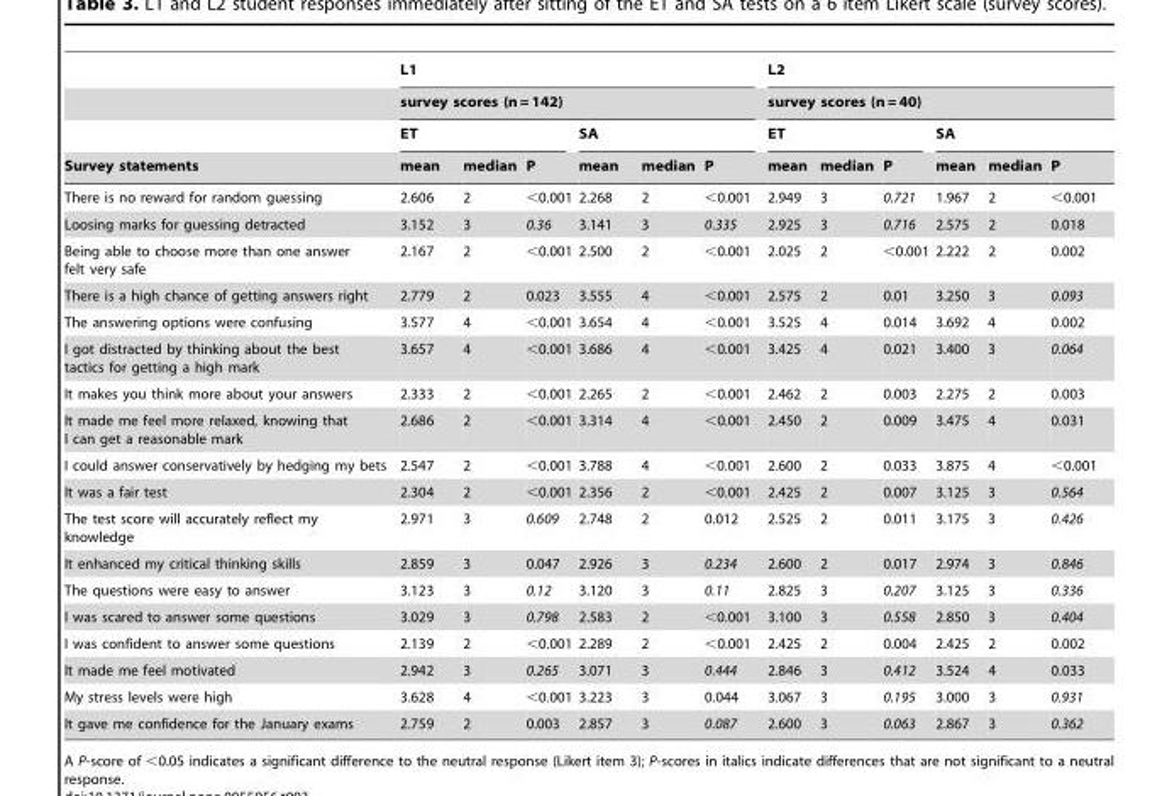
<table><thead><tr><td rowspan="4">Survey statements</td><td rowspan="2" colspan="6">L1 survey scores (n = 142)</td><td rowspan="2" colspan="6">L2 survey scores (n = 40)</td></tr><tr></tr><tr><td colspan="3">ET</td><td colspan="3">SA</td><td colspan="3">ET</td><td colspan="3">SA</td></tr><tr><td>mean</td><td>median</td><td>P</td><td>mean</td><td>median</td><td>P</td><td>mean</td><td>median</td><td>P</td><td>mean</td><td>median</td><td>P</td></tr></thead><tbody><tr><td>There is no reward for random guessing</td><td>2.606</td><td>2</td><td>&lt;0.001</td><td>2.268</td><td>2</td><td>&lt;0.001</td><td>2.949</td><td>3</td><td>0.721</td><td>1.967</td><td>2</td><td>&lt;0.001</td></tr><tr><td>Loosing marks for guessing detracted</td><td>3.152</td><td>3</td><td>0.36</td><td>3.141</td><td>3</td><td>0.335</td><td>2.925</td><td>3</td><td>0.716</td><td>2.575</td><td>2</td><td>0.018</td></tr><tr><td>Being able to choose more than one answer felt very safe</td><td>2.167</td><td>2</td><td>&lt;0.001</td><td>2.500</td><td>2</td><td>&lt;0.001</td><td>2.025</td><td>2</td><td>&lt;0.001</td><td>2.222</td><td>2</td><td>0.002</td></tr><tr><td>There is a high chance of getting answers right</td><td>2.779</td><td>2</td><td>0.023</td><td>3.555</td><td>4</td><td>&lt;0.001</td><td>2.575</td><td>2</td><td>0.01</td><td>3.250</td><td>3</td><td>0.093</td></tr><tr><td>The answering options were confusing</td><td>3.577</td><td>4</td><td>&lt;0.001</td><td>3.654</td><td>4</td><td>&lt;0.001</td><td>3.525</td><td>4</td><td>0.014</td><td>3.692</td><td>4</td><td>0.002</td></tr><tr><td>I got distracted by thinking about the best tactics for getting a high mark</td><td>3.657</td><td>4</td><td>&lt;0.001</td><td>3.686</td><td>4</td><td>&lt;0.001</td><td>3.425</td><td>4</td><td>0.021</td><td>3.400</td><td>3</td><td>0.064</td></tr><tr><td>It makes you think more about your answers</td><td>2.333</td><td>2</td><td>&lt;0.001</td><td>2.265</td><td>2</td><td>&lt;0.001</td><td>2.462</td><td>2</td><td>0.003</td><td>2.275</td><td>2</td><td>0.003</td></tr><tr><td>It made me feel more relaxed, knowing that I can get a reasonable mark</td><td>2.686</td><td>2</td><td>&lt;0.001</td><td>3.314</td><td>4</td><td>&lt;0.001</td><td>2.450</td><td>2</td><td>0.009</td><td>3.475</td><td>4</td><td>0.031</td></tr><tr><td>I could answer conservatively by hedging my bets</td><td>2.547</td><td>2</td><td>&lt;0.001</td><td>3.788</td><td>4</td><td>&lt;0.001</td><td>2.600</td><td>2</td><td>0.033</td><td>3.875</td><td>4</td><td>&lt;0.001</td></tr><tr><td>It was a fair test</td><td>2.304</td><td>2</td><td>&lt;0.001</td><td>2.356</td><td>2</td><td>&lt;0.001</td><td>2.425</td><td>2</td><td>0.007</td><td>3.125</td><td>3</td><td>0.564</td></tr><tr><td>The test score will accurately reflect my knowledge</td><td>2.971</td><td>3</td><td>0.609</td><td>2.748</td><td>2</td><td>0.012</td><td>2.525</td><td>2</td><td>0.011</td><td>3.175</td><td>3</td><td>0.426</td></tr><tr><td>It enhanced my critical thinking skills</td><td>2.859</td><td>3</td><td>0.047</td><td>2.926</td><td>3</td><td>0.234</td><td>2.600</td><td>2</td><td>0.017</td><td>2.974</td><td>3</td><td>0.846</td></tr><tr><td>The questions were easy to answer</td><td>3.123</td><td>3</td><td>0.12</td><td>3.120</td><td>3</td><td>0.11</td><td>2.825</td><td>3</td><td>0.207</td><td>3.125</td><td>3</td><td>0.336</td></tr><tr><td>I was scared to answer some questions</td><td>3.029</td><td>3</td><td>0.798</td><td>2.583</td><td>2</td><td>&lt;0.001</td><td>3.100</td><td>3</td><td>0.558</td><td>2.850</td><td>3</td><td>0.404</td></tr><tr><td>I was confident to answer some questions</td><td>2.139</td><td>2</td><td>&lt;0.001</td><td>2.289</td><td>2</td><td>&lt;0.001</td><td>2.425</td><td>2</td><td>0.004</td><td>2.425</td><td>2</td><td>0.002</td></tr><tr><td>It made me feel motivated</td><td>2.942</td><td>3</td><td>0.265</td><td>3.071</td><td>3</td><td>0.444</td><td>2.846</td><td>3</td><td>0.412</td><td>3.524</td><td>4</td><td>0.033</td></tr><tr><td>My stress levels were high</td><td>3.628</td><td>4</td><td>&lt;0.001</td><td>3.223</td><td>3</td><td>0.044</td><td>3.067</td><td>3</td><td>0.195</td><td>3.000</td><td>3</td><td>0.931</td></tr><tr><td>It gave me confidence for the January exams</td><td>2.759</td><td>2</td><td>0.003</td><td>2.857</td><td>3</td><td>0.087</td><td>2.600</td><td>3</td><td>0.063</td><td>2.867</td><td>3</td><td>0.362</td></tr></tbody></table>